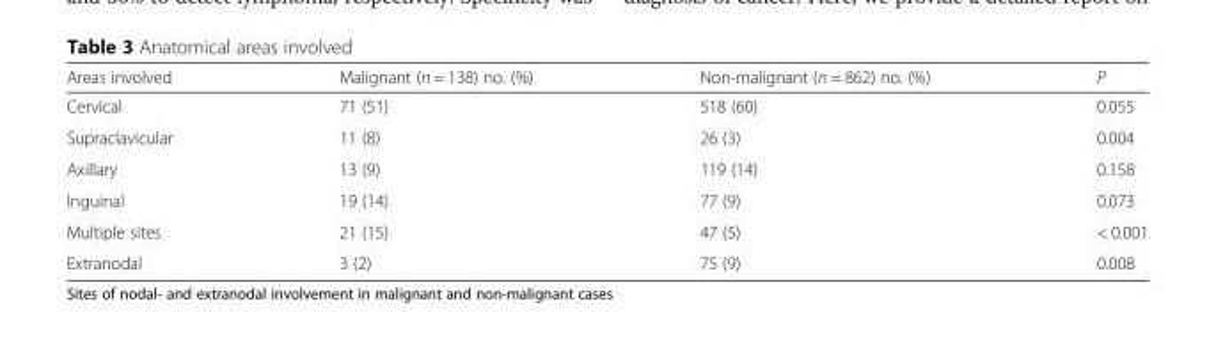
<table><thead><tr><td>Areas involved</td><td>Malignant (n = 138) no. (%)</td><td>Non-malignant (n = 862) no. (%)</td><td>P</td></tr></thead><tbody><tr><td>Cervical</td><td>71 (51)</td><td>518 (60)</td><td>0.055</td></tr><tr><td>Supraclavicular</td><td>11 (8)</td><td>26 (3)</td><td>0.004</td></tr><tr><td>Axillary</td><td>13 (9)</td><td>119 (14)</td><td>0.158</td></tr><tr><td>Inguinal</td><td>19 (14)</td><td>77 (9)</td><td>0.073</td></tr><tr><td>Multiple sites</td><td>21 (15)</td><td>47 (5)</td><td>&lt; 0.001</td></tr><tr><td>Extranodal</td><td>3 (2)</td><td>75 (9)</td><td>0.008</td></tr></tbody></table>